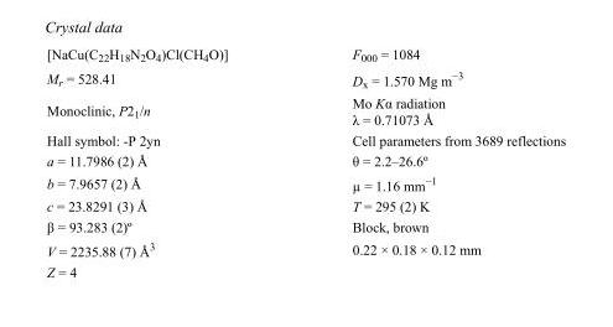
<table><tbody><tr><td>[NaCu(C<sub>22</sub>H<sub>18</sub>N<sub>2</sub>O<sub>4</sub>)Cl(CH<sub>4</sub>O)]</td><td>F<sub>000</sub> = 1084</td></tr><tr><td>M<sub>r</sub> = 528.41</td><td>D<sub>x</sub> = 1.570 Mg m<sup>−3</sup></td></tr><tr><td>Monoclinic, P2<sub>1</sub>/n</td><td>Mo Kα radiation λ = 0.71073 Å</td></tr><tr><td>Hall symbol: -P 2yn</td><td>Cell parameters from 3689 reflections</td></tr><tr><td>a = 11.7986 (2) Å</td><td>θ = 2.2–26.6º</td></tr><tr><td>b = 7.9657 (2) Å</td><td>µ = 1.16 mm<sup>−1</sup></td></tr><tr><td>c = 23.8291 (3) Å</td><td>T = 295 (2) K</td></tr><tr><td>β = 93.283 (2)º</td><td>Block, brown</td></tr><tr><td>V = 2235.88 (7) Å<sup>3</sup></td><td>0.22 × 0.18 × 0.12 mm</td></tr><tr><td>Z = 4</td><td></td></tr></tbody></table>